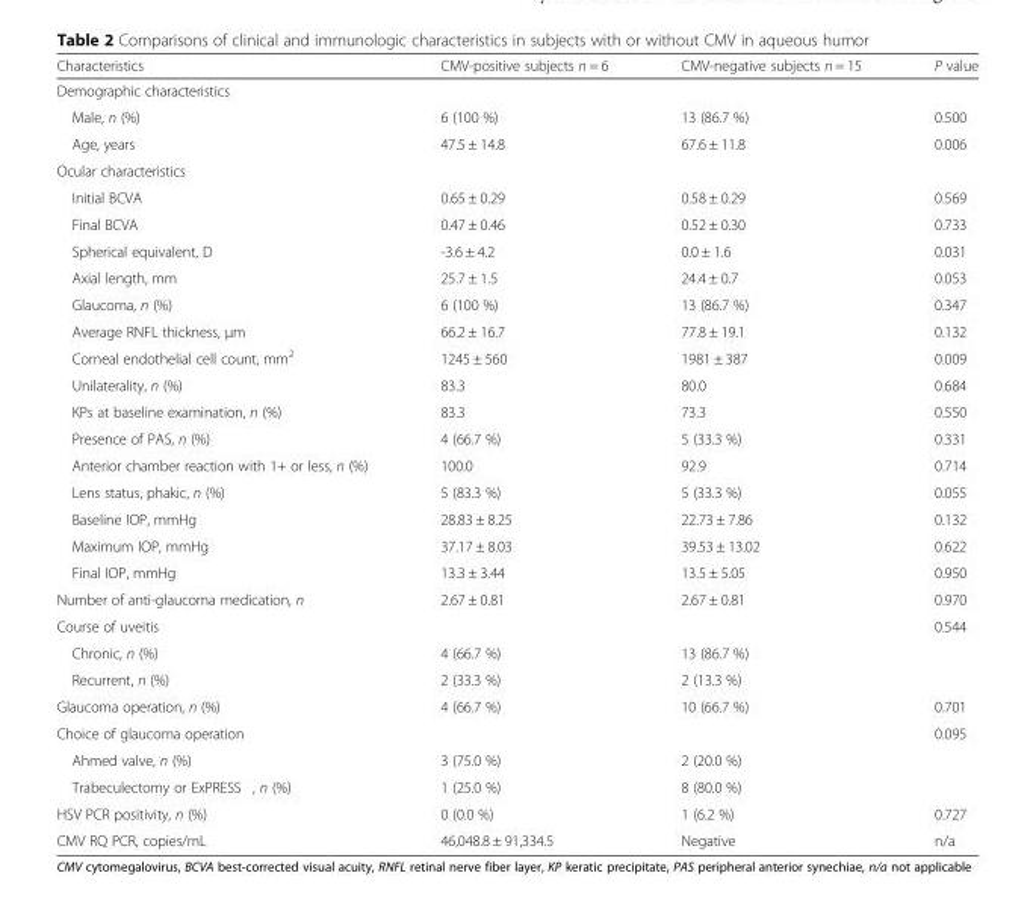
<table><thead><tr><td>Characteristics</td><td>CMV-positive subjects n = 6</td><td>CMV-negative subjects n = 15</td><td>P value</td></tr></thead><tbody><tr><td colspan="4">Demographic characteristics</td></tr><tr><td>Male, n (%)</td><td>6 (100 %)</td><td>13 (86.7 %)</td><td>0.500</td></tr><tr><td>Age, years</td><td>47.5 ± 14.8</td><td>67.6 ± 11.8</td><td>0.006</td></tr><tr><td colspan="4">Ocular characteristics</td></tr><tr><td>Initial BCVA</td><td>0.65 ± 0.29</td><td>0.58 ± 0.29</td><td>0.569</td></tr><tr><td>Final BCVA</td><td>0.47 ± 0.46</td><td>0.52 ± 0.30</td><td>0.733</td></tr><tr><td>Spherical equivalent, D</td><td>-3.6 ± 4.2</td><td>0.0 ± 1.6</td><td>0.031</td></tr><tr><td>Axial length, mm</td><td>25.7 ± 1.5</td><td>24.4 ± 0.7</td><td>0.053</td></tr><tr><td>Glaucoma, n (%)</td><td>6 (100 %)</td><td>13 (86.7 %)</td><td>0.347</td></tr><tr><td>Average RNFL thickness, μm</td><td>66.2 ± 16.7</td><td>77.8 ± 19.1</td><td>0.132</td></tr><tr><td>Corneal endothelial cell count, mm<sup>2</sup></td><td>1245 ± 560</td><td>1981 ± 387</td><td>0.009</td></tr><tr><td>Unilaterality, n (%)</td><td>83.3</td><td>80.0</td><td>0.684</td></tr><tr><td>KPs at baseline examination, n (%)</td><td>83.3</td><td>73.3</td><td>0.550</td></tr><tr><td>Presence of PAS, n (%)</td><td>4 (66.7 %)</td><td>5 (33.3 %)</td><td>0.331</td></tr><tr><td>Anterior chamber reaction with 1+ or less, n (%)</td><td>100.0</td><td>92.9</td><td>0.714</td></tr><tr><td>Lens status, phakic, n (%)</td><td>5 (83.3 %)</td><td>5 (33.3 %)</td><td>0.055</td></tr><tr><td>Baseline IOP, mmHg</td><td>28.83 ± 8.25</td><td>22.73 ± 7.86</td><td>0.132</td></tr><tr><td>Maximum IOP, mmHg</td><td>37.17 ± 8.03</td><td>39.53 ± 13.02</td><td>0.622</td></tr><tr><td>Final IOP, mmHg</td><td>13.3 ± 3.44</td><td>13.5 ± 5.05</td><td>0.950</td></tr><tr><td>Number of anti-glaucoma medication, n</td><td>2.67 ± 0.81</td><td>2.67 ± 0.81</td><td>0.970</td></tr><tr><td>Course of uveitis</td><td></td><td></td><td>0.544</td></tr><tr><td>Chronic, n (%)</td><td>4 (66.7 %)</td><td>13 (86.7 %)</td><td></td></tr><tr><td>Recurrent, n (%)</td><td>2 (33.3 %)</td><td>2 (13.3 %)</td><td></td></tr><tr><td>Glaucoma operation, n (%)</td><td>4 (66.7 %)</td><td>10 (66.7 %)</td><td>0.701</td></tr><tr><td>Choice of glaucoma operation</td><td></td><td></td><td>0.095</td></tr><tr><td>Ahmed valve, n (%)</td><td>3 (75.0 %)</td><td>2 (20.0 %)</td><td></td></tr><tr><td>Trabeculectomy or ExPRESS , n (%)</td><td>1 (25.0 %)</td><td>8 (80.0 %)</td><td></td></tr><tr><td>HSV PCR positivity, n (%)</td><td>0 (0.0 %)</td><td>1 (6.2 %)</td><td>0.727</td></tr><tr><td>CMV RQ PCR, copies/mL</td><td>46,048.8 ± 91,334.5</td><td>Negative</td><td>n/a</td></tr></tbody></table>